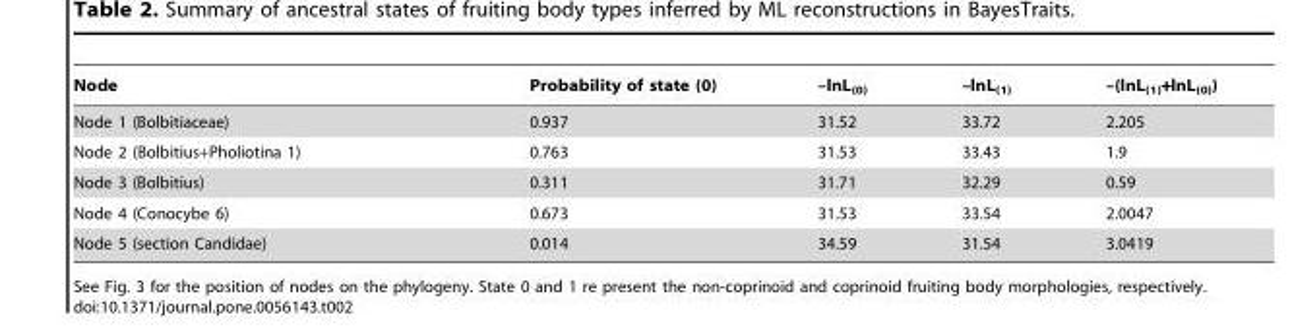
<table><thead><tr><td>Node</td><td>Probability of state (0)</td><td>–lnL<sub>(0)</sub></td><td>–lnL<sub>(1)</sub></td><td>–(lnL<sub>(1)</sub>+lnL<sub>(0)</sub>)</td></tr></thead><tbody><tr><td>Node 1 (Bolbitiaceae)</td><td>0.937</td><td>31.52</td><td>33.72</td><td>2.205</td></tr><tr><td>Node 2 (Bolbitius+Pholiotina 1)</td><td>0.763</td><td>31.53</td><td>33.43</td><td>1.9</td></tr><tr><td>Node 3 (Bolbitius)</td><td>0.311</td><td>31.71</td><td>32.29</td><td>0.59</td></tr><tr><td>Node 4 (Conocybe 6)</td><td>0.673</td><td>31.53</td><td>33.54</td><td>2.0047</td></tr><tr><td>Node 5 (section Candidae)</td><td>0.014</td><td>34.59</td><td>31.54</td><td>3.0419</td></tr></tbody></table>